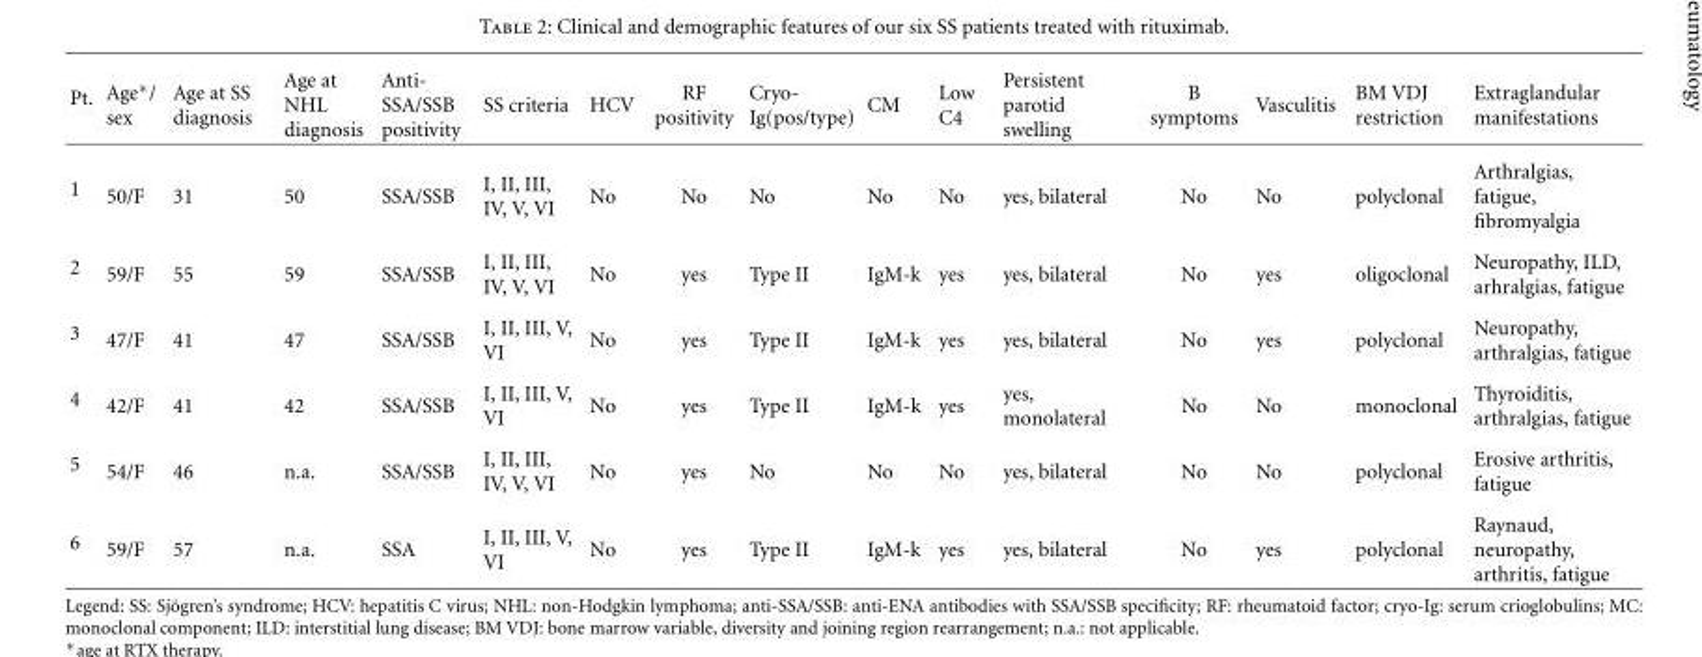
<table><thead><tr><td>Pt.</td><td>Age∗/ sex</td><td>Age at SS diagnosis</td><td>Age at NHL diagnosis</td><td>Anti- SSA/SSB positivity</td><td>SS criteria</td><td>HCV</td><td>RF positivity</td><td>Cryo- Ig(pos/type)</td><td>CM</td><td>Low C4</td><td>Persistent parotid swelling</td><td>B symptoms</td><td>Vasculitis</td><td>BM VDJ restriction</td><td>Extraglandular manifestations</td></tr></thead><tbody><tr><td>1</td><td>50/F</td><td>31</td><td>50</td><td>SSA/SSB</td><td>I, II, III, IV, V, VI</td><td>No</td><td>No</td><td>No</td><td>No</td><td>No</td><td>yes, bilateral</td><td>No</td><td>No</td><td>polyclonal</td><td>Arthralgias, fatigue, fibromyalgia</td></tr><tr><td>2</td><td>59/F</td><td>55</td><td>59</td><td>SSA/SSB</td><td>I, II, III, IV, V, VI</td><td>No</td><td>yes</td><td>Type II</td><td>IgM-k</td><td>yes</td><td>yes, bilateral</td><td>No</td><td>yes</td><td>oligoclonal</td><td>Neuropathy, ILD, arhralgias, fatigue</td></tr><tr><td>3</td><td>47/F</td><td>41</td><td>47</td><td>SSA/SSB</td><td>I, II, III, V, VI</td><td>No</td><td>yes</td><td>Type II</td><td>IgM-k</td><td>yes</td><td>yes, bilateral</td><td>No</td><td>yes</td><td>polyclonal</td><td>Neuropathy, arthralgias, fatigue</td></tr><tr><td>4</td><td>42/F</td><td>41</td><td>42</td><td>SSA/SSB</td><td>I, II, III, V, VI</td><td>No</td><td>yes</td><td>Type II</td><td>IgM-k</td><td>yes</td><td>yes, monolateral</td><td>No</td><td>No</td><td>monoclonal</td><td>Thyroiditis, arthralgias, fatigue</td></tr><tr><td>5</td><td>54/F</td><td>46</td><td>n.a.</td><td>SSA/SSB</td><td>I, II, III, IV, V, VI</td><td>No</td><td>yes</td><td>No</td><td>No</td><td>No</td><td>yes, bilateral</td><td>No</td><td>No</td><td>polyclonal</td><td>Erosive arthritis, fatigue</td></tr><tr><td>6</td><td>59/F</td><td>57</td><td>n.a.</td><td>SSA</td><td>I, II, III, V, VI</td><td>No</td><td>yes</td><td>Type II</td><td>IgM-k</td><td>yes</td><td>yes, bilateral</td><td>No</td><td>yes</td><td>polyclonal</td><td>Raynaud, neuropathy, arthritis, fatigue</td></tr></tbody></table>